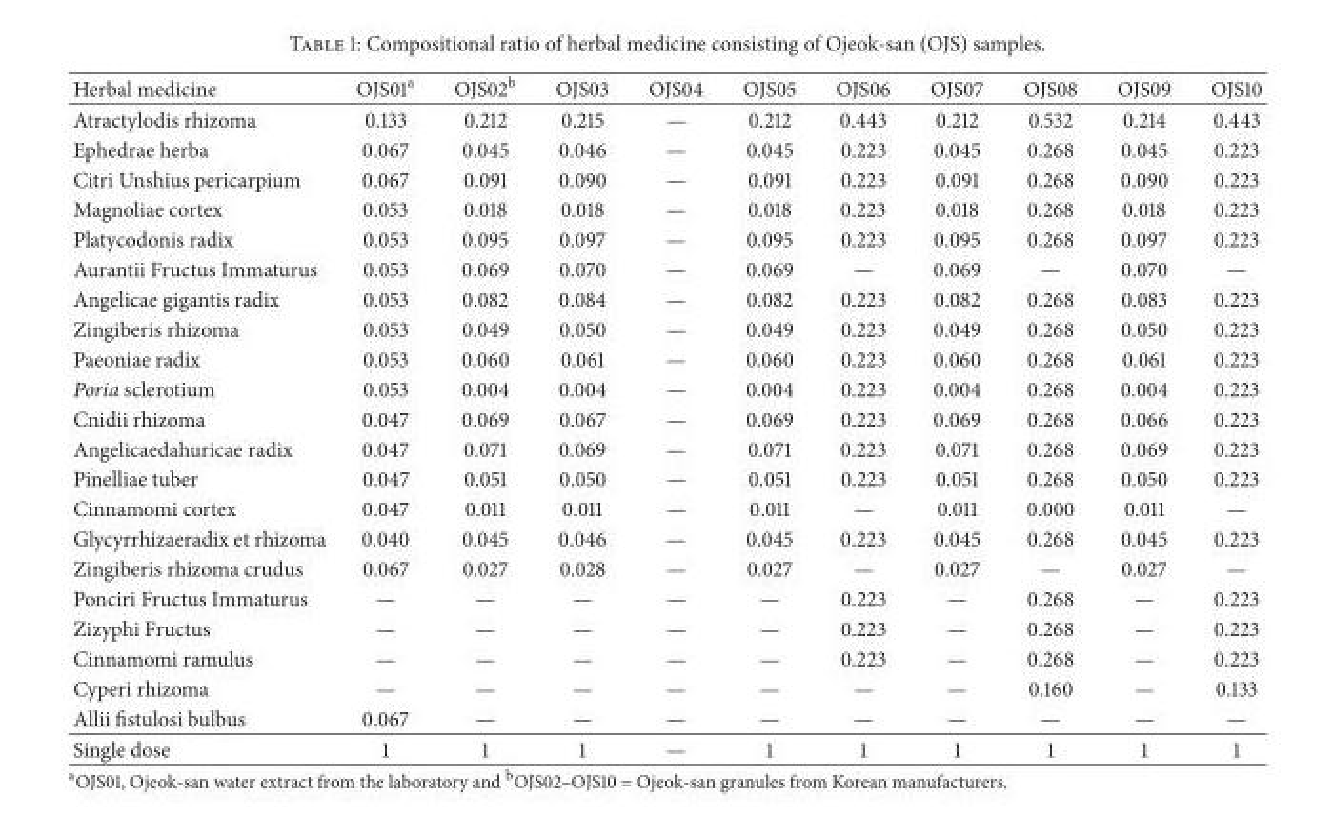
<table><thead><tr><td>Herbal medicine</td><td>OJS01<sup>a</sup></td><td>OJS02<sup>b</sup></td><td>OJS03</td><td>OJS04</td><td>OJS05</td><td>OJS06</td><td>OJS07</td><td>OJS08</td><td>OJS09</td><td>OJS10</td></tr></thead><tbody><tr><td>Atractylodis rhizoma</td><td>0.133</td><td>0.212</td><td>0.215</td><td>—</td><td>0.212</td><td>0.443</td><td>0.212</td><td>0.532</td><td>0.214</td><td>0.443</td></tr><tr><td>Ephedrae herba</td><td>0.067</td><td>0.045</td><td>0.046</td><td>—</td><td>0.045</td><td>0.223</td><td>0.045</td><td>0.268</td><td>0.045</td><td>0.223</td></tr><tr><td>Citri Unshius pericarpium</td><td>0.067</td><td>0.091</td><td>0.090</td><td>—</td><td>0.091</td><td>0.223</td><td>0.091</td><td>0.268</td><td>0.090</td><td>0.223</td></tr><tr><td>Magnoliae cortex</td><td>0.053</td><td>0.018</td><td>0.018</td><td>—</td><td>0.018</td><td>0.223</td><td>0.018</td><td>0.268</td><td>0.018</td><td>0.223</td></tr><tr><td>Platycodonis radix</td><td>0.053</td><td>0.095</td><td>0.097</td><td>—</td><td>0.095</td><td>0.223</td><td>0.095</td><td>0.268</td><td>0.097</td><td>0.223</td></tr><tr><td>Aurantii Fructus Immaturus</td><td>0.053</td><td>0.069</td><td>0.070</td><td>—</td><td>0.069</td><td>—</td><td>0.069</td><td>—</td><td>0.070</td><td>—</td></tr><tr><td>Angelicae gigantis radix</td><td>0.053</td><td>0.082</td><td>0.084</td><td>—</td><td>0.082</td><td>0.223</td><td>0.082</td><td>0.268</td><td>0.083</td><td>0.223</td></tr><tr><td>Zingiberis rhizoma</td><td>0.053</td><td>0.049</td><td>0.050</td><td>—</td><td>0.049</td><td>0.223</td><td>0.049</td><td>0.268</td><td>0.050</td><td>0.223</td></tr><tr><td>Paeoniae radix</td><td>0.053</td><td>0.060</td><td>0.061</td><td>—</td><td>0.060</td><td>0.223</td><td>0.060</td><td>0.268</td><td>0.061</td><td>0.223</td></tr><tr><td>Poria sclerotium</td><td>0.053</td><td>0.004</td><td>0.004</td><td>—</td><td>0.004</td><td>0.223</td><td>0.004</td><td>0.268</td><td>0.004</td><td>0.223</td></tr><tr><td>Cnidii rhizoma</td><td>0.047</td><td>0.069</td><td>0.067</td><td>—</td><td>0.069</td><td>0.223</td><td>0.069</td><td>0.268</td><td>0.066</td><td>0.223</td></tr><tr><td>Angelicaedahuricae radix</td><td>0.047</td><td>0.071</td><td>0.069</td><td>—</td><td>0.071</td><td>0.223</td><td>0.071</td><td>0.268</td><td>0.069</td><td>0.223</td></tr><tr><td>Pinelliae tuber</td><td>0.047</td><td>0.051</td><td>0.050</td><td>—</td><td>0.051</td><td>0.223</td><td>0.051</td><td>0.268</td><td>0.050</td><td>0.223</td></tr><tr><td>Cinnamomi cortex</td><td>0.047</td><td>0.011</td><td>0.011</td><td>—</td><td>0.011</td><td>—</td><td>0.011</td><td>0.000</td><td>0.011</td><td>—</td></tr><tr><td>Glycyrrhizaeradix et rhizoma</td><td>0.040</td><td>0.045</td><td>0.046</td><td>—</td><td>0.045</td><td>0.223</td><td>0.045</td><td>0.268</td><td>0.045</td><td>0.223</td></tr><tr><td>Zingiberis rhizoma crudus</td><td>0.067</td><td>0.027</td><td>0.028</td><td>—</td><td>0.027</td><td>—</td><td>0.027</td><td>—</td><td>0.027</td><td>—</td></tr><tr><td>Ponciri Fructus Immaturus</td><td>—</td><td>—</td><td>—</td><td>—</td><td>—</td><td>0.223</td><td>—</td><td>0.268</td><td>—</td><td>0.223</td></tr><tr><td>Zizyphi Fructus</td><td>—</td><td>—</td><td>—</td><td>—</td><td>—</td><td>0.223</td><td>—</td><td>0.268</td><td>—</td><td>0.223</td></tr><tr><td>Cinnamomi ramulus</td><td>—</td><td>—</td><td>—</td><td>—</td><td>—</td><td>0.223</td><td>—</td><td>0.268</td><td>—</td><td>0.223</td></tr><tr><td>Cyperi rhizoma</td><td>—</td><td>—</td><td>—</td><td>—</td><td>—</td><td>—</td><td>—</td><td>0.160</td><td>—</td><td>0.133</td></tr><tr><td>Allii fistulosi bulbus</td><td>0.067</td><td>—</td><td>—</td><td>—</td><td>—</td><td>—</td><td>—</td><td>—</td><td>—</td><td>—</td></tr><tr><td>Single dose</td><td>1</td><td>1</td><td>1</td><td>—</td><td>1</td><td>1</td><td>1</td><td>1</td><td>1</td><td>1</td></tr></tbody></table>